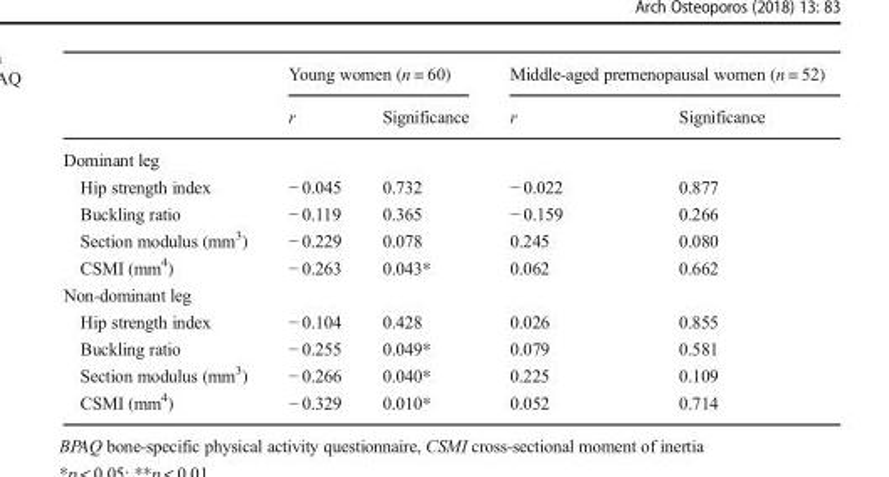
<table><thead><tr><td rowspan="2"></td><td colspan="2">Young women (n = 60)</td><td colspan="2">Middle-aged premenopausal women (n = 52)</td></tr><tr><td>r</td><td>Significance</td><td>r</td><td>Significance</td></tr></thead><tbody><tr><td colspan="5">Dominant leg</td></tr><tr><td>Hip strength index</td><td>− 0.045</td><td>0.732</td><td>− 0.022</td><td>0.877</td></tr><tr><td>Buckling ratio</td><td>− 0.119</td><td>0.365</td><td>− 0.159</td><td>0.266</td></tr><tr><td>Section modulus (mm<sup>3</sup>)</td><td>− 0.229</td><td>0.078</td><td>0.245</td><td>0.080</td></tr><tr><td>CSMI (mm<sup>4</sup>)</td><td>− 0.263</td><td>0.043*</td><td>0.062</td><td>0.662</td></tr><tr><td colspan="5">Non-dominant leg</td></tr><tr><td>Hip strength index</td><td>− 0.104</td><td>0.428</td><td>0.026</td><td>0.855</td></tr><tr><td>Buckling ratio</td><td>− 0.255</td><td>0.049*</td><td>0.079</td><td>0.581</td></tr><tr><td>Section modulus (mm<sup>3</sup>)</td><td>− 0.266</td><td>0.040*</td><td>0.225</td><td>0.109</td></tr><tr><td>CSMI (mm<sup>4</sup>)</td><td>− 0.329</td><td>0.010*</td><td>0.052</td><td>0.714</td></tr></tbody></table>